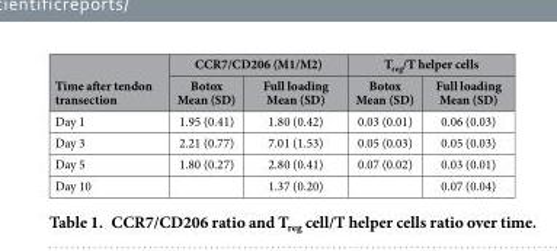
<table><thead><tr><td rowspan="2">Time after tendon transection</td><td colspan="2">CCR7/CD206 (M1/M2)</td><td colspan="2">T<sub>reg</sub>/T helper cells</td></tr><tr><td>Botox Mean (SD)</td><td>Full loading Mean (SD)</td><td>Botox Mean (SD)</td><td>Full loading Mean (SD)</td></tr></thead><tbody><tr><td>Day 1</td><td>1.95 (0.41)</td><td>1.80 (0.42)</td><td>0.03 (0.01)</td><td>0.06 (0.03)</td></tr><tr><td>Day 3</td><td>2.21 (0.77)</td><td>7.01 (1.53)</td><td>0.05 (0.03)</td><td>0.05 (0.03)</td></tr><tr><td>Day 5</td><td>1.80 (0.27)</td><td>2.80 (0.41)</td><td>0.07 (0.02)</td><td>0.03 (0.01)</td></tr><tr><td>Day 10</td><td></td><td>1.37 (0.20)</td><td></td><td>0.07 (0.04)</td></tr></tbody></table>